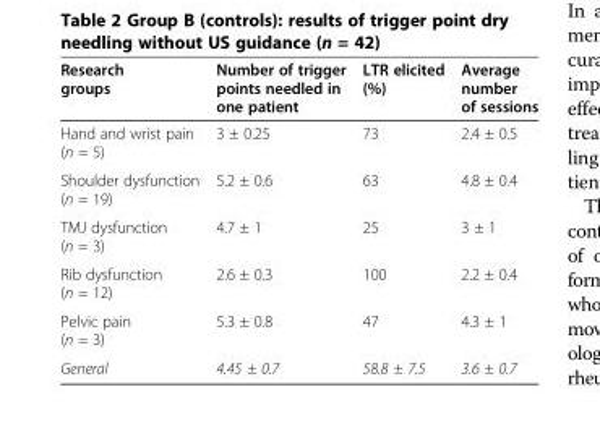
<table><thead><tr><td>Research groups</td><td>Number of trigger points needled in one patient</td><td>LTR elicited (%)</td><td>Average number of sessions</td></tr></thead><tbody><tr><td>Hand and wrist pain (n = 5)</td><td>3 ± 0.25</td><td>73</td><td>2.4 ± 0.5</td></tr><tr><td>Shoulder dysfunction (n = 19)</td><td>5.2 ± 0.6</td><td>63</td><td>4.8 ± 0.4</td></tr><tr><td>TMJ dysfunction (n = 3)</td><td>4.7 ± 1</td><td>25</td><td>3 ± 1</td></tr><tr><td>Rib dysfunction (n = 12)</td><td>2.6 ± 0.3</td><td>100</td><td>2.2 ± 0.4</td></tr><tr><td>Pelvic pain (n = 3)</td><td>5.3 ± 0.8</td><td>47</td><td>4.3 ± 1</td></tr><tr><td>General</td><td>4.45 ± 0.7</td><td>58.8 ± 7.5</td><td>3.6 ± 0.7</td></tr></tbody></table>